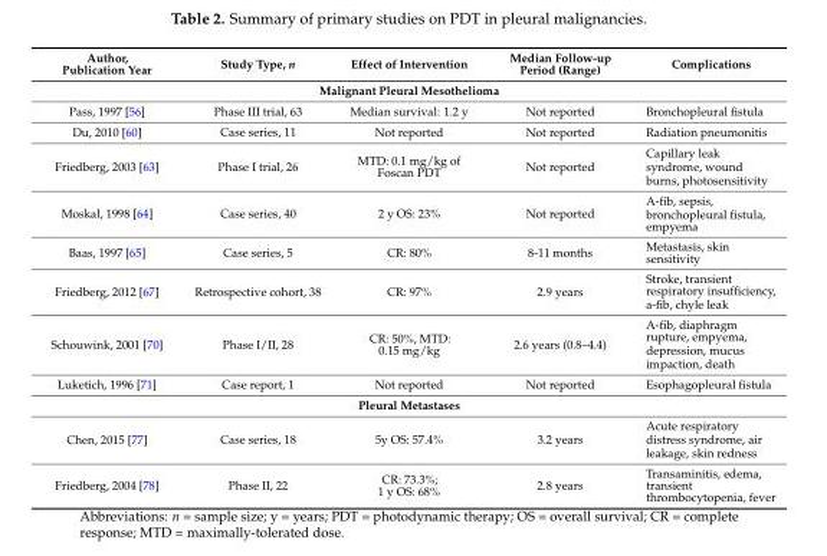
<table><thead><tr><td>Author, Publication Year</td><td>Study Type, n</td><td>Effect of Intervention</td><td>Median Follow-up Period (Range)</td><td>Complications</td></tr></thead><tbody><tr><td colspan="5">Malignant Pleural Mesothelioma</td></tr><tr><td>Pass, 1997 [56]</td><td>Phase III trial, 63</td><td>Median survival: 1.2 y</td><td>Not reported</td><td>Bronchopleural fistula</td></tr><tr><td>Du, 2010 [60]</td><td>Case series, 11</td><td>Not reported</td><td>Not reported</td><td>Radiation pneumonitis</td></tr><tr><td>Friedberg, 2003 [63]</td><td>Phase I trial, 26</td><td>MTD: 0.1 mg/kg of Foscan PDT</td><td>Not reported</td><td>Capillary leak syndrome, wound burns, photosensitivity</td></tr><tr><td>Moskal, 1998 [64]</td><td>Case series, 40</td><td>2 y OS: 23%</td><td>Not reported</td><td>A-fib, sepsis, bronchopleural fistula, empyema</td></tr><tr><td>Baas, 1997 [65]</td><td>Case series, 5</td><td>CR: 80%</td><td>8-11 months</td><td>Metastasis, skin sensitivity</td></tr><tr><td>Friedberg, 2012 [67]</td><td>Retrospective cohort, 38</td><td>CR: 97%</td><td>2.9 years</td><td>Stroke, transient respiratory insufficiency, a-fib, chyle leak</td></tr><tr><td>Schouwink, 2001 [70]</td><td>Phase I/II, 28</td><td>CR: 50%, MTD: 0.15 mg/kg</td><td>2.6 years (0.8–4.4)</td><td>A-fib, diaphragm rupture, empyema, depression, mucus impaction, death</td></tr><tr><td>Luketich, 1996 [71]</td><td>Case report, 1</td><td>Not reported</td><td>Not reported</td><td>Esophagopleural fistula</td></tr><tr><td colspan="5">Pleural Metastases</td></tr><tr><td>Chen, 2015 [77]</td><td>Case series, 18</td><td>5y OS: 57.4%</td><td>3.2 years</td><td>Acute respiratory distress syndrome, air leakage, skin redness</td></tr><tr><td>Friedberg, 2004 [78]</td><td>Phase II, 22</td><td>CR: 73.3%; 1 y OS: 68%</td><td>2.8 years</td><td>Transaminitis, edema, transient thrombocytopenia, fever</td></tr></tbody></table>